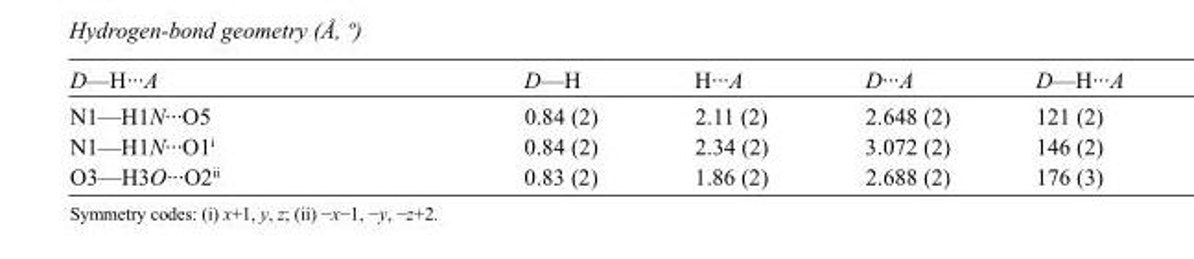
<table><tbody><tr><td>D—H···A</td><td>D—H</td><td>H···A</td><td>D···A</td><td>D—H···A</td></tr><tr><td>N1—H1N···O5</td><td>0.84 (2)</td><td>2.11 (2)</td><td>2.648 (2)</td><td>121 (2)</td></tr><tr><td>N1—H1N···O1<sup>i</sup></td><td>0.84 (2)</td><td>2.34 (2)</td><td>3.072 (2)</td><td>146 (2)</td></tr><tr><td>O3—H3O···O2<sup>ii</sup></td><td>0.83 (2)</td><td>1.86 (2)</td><td>2.688 (2)</td><td>176 (3)</td></tr></tbody></table>